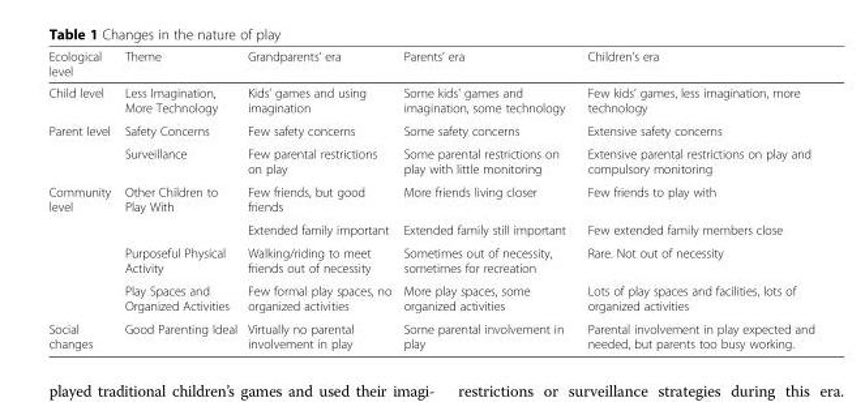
<table><thead><tr><td>Ecological level</td><td>Theme</td><td>Grandparents’ era</td><td>Parents’ era</td><td>Children’s era</td></tr></thead><tbody><tr><td>Child level</td><td>Less Imagination, More Technology</td><td>Kids’ games and using imagination</td><td>Some kids’ games and imagination, some technology</td><td>Few kids’ games, less imagination, more technology</td></tr><tr><td rowspan="2">Parent level</td><td>Safety Concerns</td><td>Few safety concerns</td><td>Some safety concerns</td><td>Extensive safety concerns</td></tr><tr><td>Surveillance</td><td>Few parental restrictions on play</td><td>Some parental restrictions on play with little monitoring</td><td>Extensive parental restrictions on play and compulsory monitoring</td></tr><tr><td rowspan="4">Community level</td><td rowspan="2">Other Children to Play With</td><td>Few friends, but good friends</td><td>More friends living closer</td><td>Few friends to play with</td></tr><tr><td>Extended family important</td><td>Extended family still important</td><td>Few extended family members close</td></tr><tr><td>Purposeful Physical Activity</td><td>Walking/riding to meet friends out of necessity</td><td>Sometimes out of necessity, sometimes for recreation</td><td>Rare. Not out of necessity</td></tr><tr><td>Play Spaces and Organized Activities</td><td>Few formal play spaces, no organized activities</td><td>More play spaces, some organized activities</td><td>Lots of play spaces and facilities, lots of organized activities</td></tr><tr><td>Social changes</td><td>Good Parenting Ideal</td><td>Virtually no parental involvement in play</td><td>Some parental involvement in play</td><td>Parental involvement in play expected and needed, but parents too busy working.</td></tr></tbody></table>